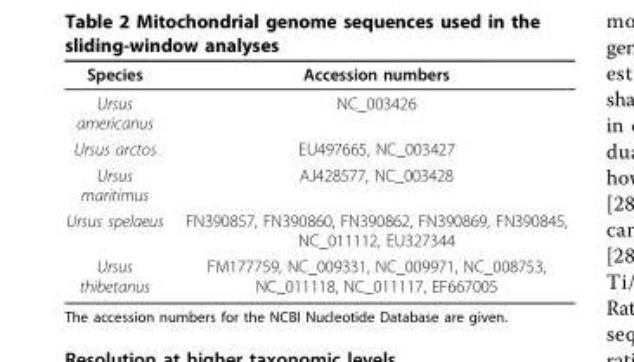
<table><thead><tr><td>Species</td><td>Accession numbers</td></tr></thead><tbody><tr><td>Ursus americanus</td><td>NC_003426</td></tr><tr><td>Ursus arctos</td><td>EU497665, NC_003427</td></tr><tr><td>Ursus maritimus</td><td>AJ428577, NC_003428</td></tr><tr><td>Ursus spelaeus</td><td>FN390857, FN390860, FN390862, FN390869, FN390845, NC_011112, EU327344</td></tr><tr><td>Ursus thibetanus</td><td>FM177759, NC_009331, NC_009971, NC_008753, NC_011118, NC_011117, EF667005</td></tr></tbody></table>